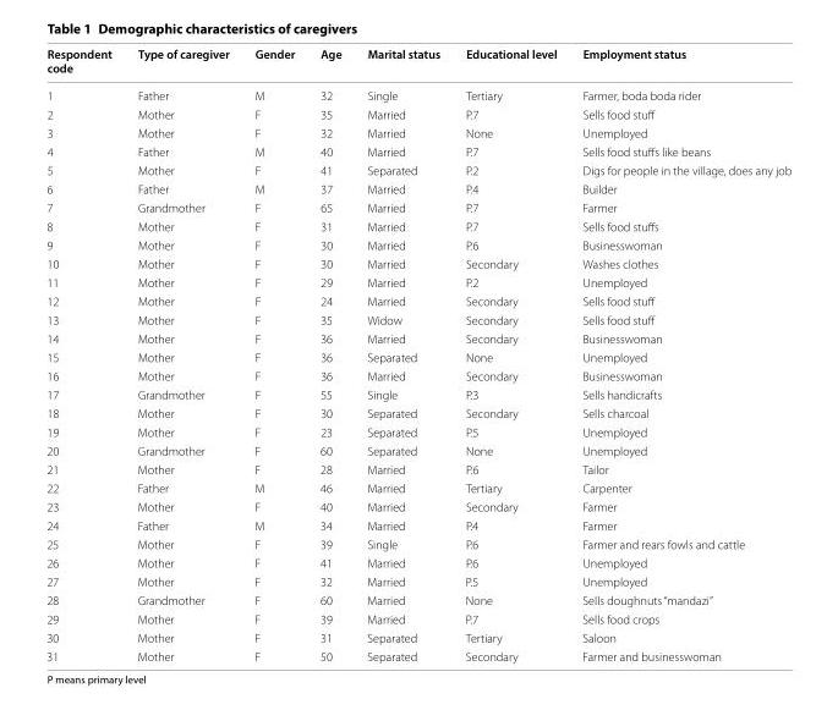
<table><thead><tr><td>Respondent code</td><td>Type of caregiver</td><td>Gender</td><td>Age</td><td>Marital status</td><td>Educational level</td><td>Employment status</td></tr></thead><tbody><tr><td>1</td><td>Father</td><td>M</td><td>32</td><td>Single</td><td>Tertiary</td><td>Farmer, boda boda rider</td></tr><tr><td>2</td><td>Mother</td><td>F</td><td>35</td><td>Married</td><td>P.7</td><td>Sells food stuff</td></tr><tr><td>3</td><td>Mother</td><td>F</td><td>32</td><td>Married</td><td>None</td><td>Unemployed</td></tr><tr><td>4</td><td>Father</td><td>M</td><td>40</td><td>Married</td><td>P.7</td><td>Sells food stuffs like beans</td></tr><tr><td>5</td><td>Mother</td><td>F</td><td>41</td><td>Separated</td><td>P.2</td><td>Digs for people in the village, does any job</td></tr><tr><td>6</td><td>Father</td><td>M</td><td>37</td><td>Married</td><td>P.4</td><td>Builder</td></tr><tr><td>7</td><td>Grandmother</td><td>F</td><td>65</td><td>Married</td><td>P.7</td><td>Farmer</td></tr><tr><td>8</td><td>Mother</td><td>F</td><td>31</td><td>Married</td><td>P.7</td><td>Sells food stuffs</td></tr><tr><td>9</td><td>Mother</td><td>F</td><td>30</td><td>Married</td><td>P.6</td><td>Businesswoman</td></tr><tr><td>10</td><td>Mother</td><td>F</td><td>30</td><td>Married</td><td>Secondary</td><td>Washes clothes</td></tr><tr><td>11</td><td>Mother</td><td>F</td><td>29</td><td>Married</td><td>P.2</td><td>Unemployed</td></tr><tr><td>12</td><td>Mother</td><td>F</td><td>24</td><td>Married</td><td>Secondary</td><td>Sells food stuff</td></tr><tr><td>13</td><td>Mother</td><td>F</td><td>35</td><td>Widow</td><td>Secondary</td><td>Sells food stuff</td></tr><tr><td>14</td><td>Mother</td><td>F</td><td>36</td><td>Married</td><td>Secondary</td><td>Businesswoman</td></tr><tr><td>15</td><td>Mother</td><td>F</td><td>36</td><td>Separated</td><td>None</td><td>Unemployed</td></tr><tr><td>16</td><td>Mother</td><td>F</td><td>36</td><td>Married</td><td>Secondary</td><td>Businesswoman</td></tr><tr><td>17</td><td>Grandmother</td><td>F</td><td>55</td><td>Single</td><td>P.3</td><td>Sells handicrafts</td></tr><tr><td>18</td><td>Mother</td><td>F</td><td>30</td><td>Separated</td><td>Secondary</td><td>Sells charcoal</td></tr><tr><td>19</td><td>Mother</td><td>F</td><td>23</td><td>Separated</td><td>P.5</td><td>Unemployed</td></tr><tr><td>20</td><td>Grandmother</td><td>F</td><td>60</td><td>Separated</td><td>None</td><td>Unemployed</td></tr><tr><td>21</td><td>Mother</td><td>F</td><td>28</td><td>Married</td><td>P.6</td><td>Tailor</td></tr><tr><td>22</td><td>Father</td><td>M</td><td>46</td><td>Married</td><td>Tertiary</td><td>Carpenter</td></tr><tr><td>23</td><td>Mother</td><td>F</td><td>40</td><td>Married</td><td>Secondary</td><td>Farmer</td></tr><tr><td>24</td><td>Father</td><td>M</td><td>34</td><td>Married</td><td>P.4</td><td>Farmer</td></tr><tr><td>25</td><td>Mother</td><td>F</td><td>39</td><td>Single</td><td>P.6</td><td>Farmer and rears fowls and cattle</td></tr><tr><td>26</td><td>Mother</td><td>F</td><td>41</td><td>Married</td><td>P.6</td><td>Unemployed</td></tr><tr><td>27</td><td>Mother</td><td>F</td><td>32</td><td>Married</td><td>P.5</td><td>Unemployed</td></tr><tr><td>28</td><td>Grandmother</td><td>F</td><td>60</td><td>Married</td><td>None</td><td>Sells doughnuts “mandazi”</td></tr><tr><td>29</td><td>Mother</td><td>F</td><td>39</td><td>Married</td><td>P.7</td><td>Sells food crops</td></tr><tr><td>30</td><td>Mother</td><td>F</td><td>31</td><td>Separated</td><td>Tertiary</td><td>Saloon</td></tr><tr><td>31</td><td>Mother</td><td>F</td><td>50</td><td>Separated</td><td>Secondary</td><td>Farmer and businesswoman</td></tr></tbody></table>